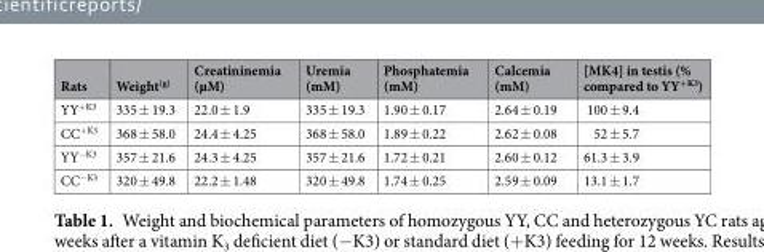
<table><thead><tr><td>Rats</td><td>Weight<sup>(g)</sup></td><td>Creatininemia (µM)</td><td>Uremia (mM)</td><td>Phosphatemia (mM)</td><td>Calcemia (mM)</td><td>[MK4] in testis (% compared to YY<sup>+K3</sup>)</td></tr></thead><tbody><tr><td>YY<sup>+K3</sup></td><td>335 ± 19.3</td><td>22.0 ± 1.9</td><td>335 ± 19.3</td><td>1.90 ± 0.17</td><td>2.64 ± 0.19</td><td>100 ± 9.4</td></tr><tr><td>CC<sup>+K3</sup></td><td>368 ± 58.0</td><td>24.4 ± 4.25</td><td>368 ± 58.0</td><td>1.89 ± 0.22</td><td>2.62 ± 0.08</td><td>52 ± 5.7</td></tr><tr><td>YY<sup>−K3</sup></td><td>357 ± 21.6</td><td>24.3 ± 4.25</td><td>357 ± 21.6</td><td>1.72 ± 0.21</td><td>2.60 ± 0.12</td><td>61.3 ± 3.9</td></tr><tr><td>CC<sup>−K3</sup></td><td>320 ± 49.8</td><td>22.2 ± 1.48</td><td>320 ± 49.8</td><td>1.74 ± 0.25</td><td>2.59 ± 0.09</td><td>13.1 ± 1.7</td></tr></tbody></table>